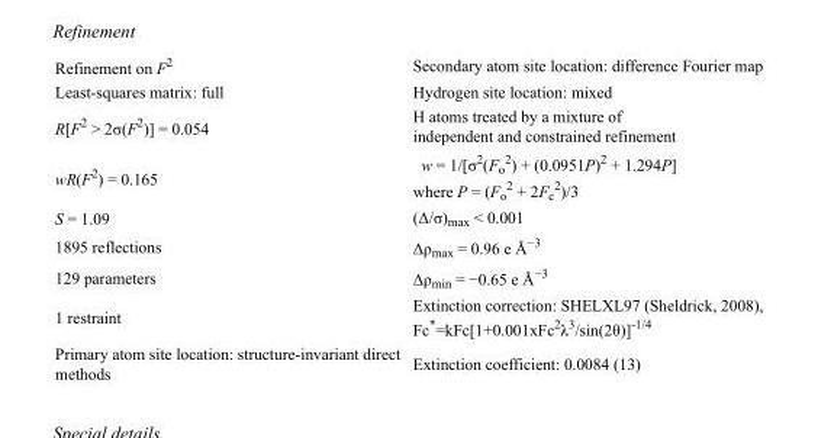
<table><tbody><tr><td>Refinement on F<sup>2</sup></td><td>Secondary atom site location: difference Fourier map</td></tr><tr><td>Least-squares matrix: full</td><td>Hydrogen site location: mixed</td></tr><tr><td>R[F<sup>2</sup> &gt; 2σ(F<sup>2</sup>)] = 0.054</td><td>H atoms treated by a mixture of independent and constrained refinement</td></tr><tr><td>wR(F<sup>2</sup>) = 0.165</td><td>w = 1/[σ<sup>2</sup>(F<sub>o</sub> <sup>2</sup>) + (0.0951P)<sup>2</sup> + 1.294P] where P = (F<sub>o</sub> <sup>2</sup> + 2F<sub>c</sub> <sup>2</sup>)/3</td></tr><tr><td>S = 1.09</td><td>(Δ/σ)<sub>max</sub> &lt; 0.001</td></tr><tr><td>1895 reflections</td><td>Δρ<sub>max</sub> = 0.96 e Å<sup>−3</sup></td></tr><tr><td>129 parameters</td><td>Δρ<sub>min</sub> = −0.65 e Å<sup>−3</sup></td></tr><tr><td>1 restraint</td><td>Extinction correction: SHELXL97 (Sheldrick, 2008), Fc*=kFc[1+0.001xFc<sup>2</sup>λ<sup>3</sup>/sin(2θ)]<sup>-1/4</sup></td></tr><tr><td>Primary atom site location: structure-invariant direct methods</td><td>Extinction coefficient: 0.0084 (13)</td></tr></tbody></table>